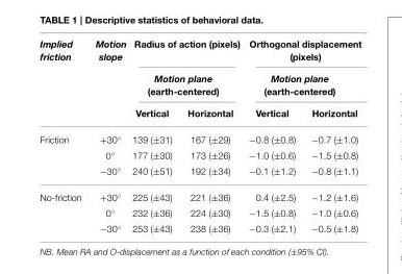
<table><thead><tr><td rowspan="3">Implied friction</td><td rowspan="3">Motion slope</td><td rowspan="2" colspan="2">Radius of action (pixels) Motion plane (earth-centered)</td><td rowspan="2" colspan="2">Orthogonal displacement (pixels) Motion plane (earth-centered)</td></tr><tr></tr><tr><td>Vertical</td><td>Horizontal</td><td>Vertical</td><td>Horizontal</td></tr></thead><tbody><tr><td rowspan="3">Friction</td><td>+30◦</td><td>139 (±31)</td><td>167 (±29)</td><td>−0.8 (±0.8)</td><td>−0.7 (±1.0)</td></tr><tr><td>0◦</td><td>177 (±30)</td><td>173 (±26)</td><td>−1.0 (±0.6)</td><td>−1.5 (±0.8)</td></tr><tr><td>−30◦</td><td>240 (±51)</td><td>192 (±34)</td><td>−0.1 (±1.2)</td><td>−0.8 (±1.1)</td></tr><tr><td rowspan="3">No-friction</td><td>+30◦</td><td>225 (±43)</td><td>221 (±36)</td><td>0.4 (±2.5)</td><td>−1.2 (±1.6)</td></tr><tr><td>0◦</td><td>232 (±36)</td><td>224 (±30)</td><td>−1.5 (±0.8)</td><td>−1.0 (±0.6)</td></tr><tr><td>−30◦</td><td>253 (±43)</td><td>238 (±36)</td><td>−0.3 (±2.1)</td><td>−0.5 (±1.8)</td></tr></tbody></table>